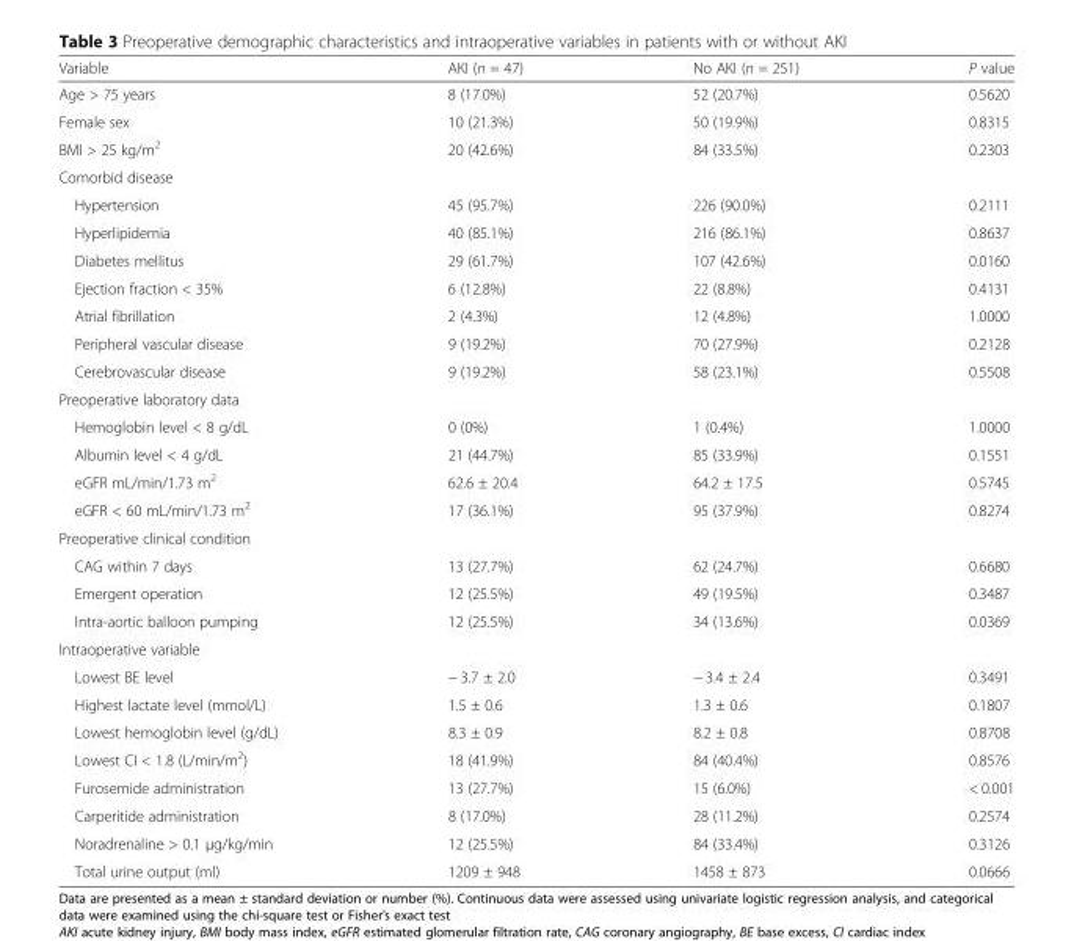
<table><thead><tr><td>Variable</td><td>AKI (n = 47)</td><td>No AKI (n = 251)</td><td>P value</td></tr></thead><tbody><tr><td>Age &gt; 75 years</td><td>8 (17.0%)</td><td>52 (20.7%)</td><td>0.5620</td></tr><tr><td>Female sex</td><td>10 (21.3%)</td><td>50 (19.9%)</td><td>0.8315</td></tr><tr><td>BMI &gt; 25 kg/m<sup>2</sup></td><td>20 (42.6%)</td><td>84 (33.5%)</td><td>0.2303</td></tr><tr><td colspan="4">Comorbid disease</td></tr><tr><td>Hypertension</td><td>45 (95.7%)</td><td>226 (90.0%)</td><td>0.2111</td></tr><tr><td>Hyperlipidemia</td><td>40 (85.1%)</td><td>216 (86.1%)</td><td>0.8637</td></tr><tr><td>Diabetes mellitus</td><td>29 (61.7%)</td><td>107 (42.6%)</td><td>0.0160</td></tr><tr><td>Ejection fraction &lt; 35%</td><td>6 (12.8%)</td><td>22 (8.8%)</td><td>0.4131</td></tr><tr><td>Atrial fibrillation</td><td>2 (4.3%)</td><td>12 (4.8%)</td><td>1.0000</td></tr><tr><td>Peripheral vascular disease</td><td>9 (19.2%)</td><td>70 (27.9%)</td><td>0.2128</td></tr><tr><td>Cerebrovascular disease</td><td>9 (19.2%)</td><td>58 (23.1%)</td><td>0.5508</td></tr><tr><td colspan="4">Preoperative laboratory data</td></tr><tr><td>Hemoglobin level &lt; 8 g/dL</td><td>0 (0%)</td><td>1 (0.4%)</td><td>1.0000</td></tr><tr><td>Albumin level &lt; 4 g/dL</td><td>21 (44.7%)</td><td>85 (33.9%)</td><td>0.1551</td></tr><tr><td>eGFR mL/min/1.73 m<sup>2</sup></td><td>62.6 ± 20.4</td><td>64.2 ± 17.5</td><td>0.5745</td></tr><tr><td>eGFR &lt; 60 mL/min/1.73 m<sup>2</sup></td><td>17 (36.1%)</td><td>95 (37.9%)</td><td>0.8274</td></tr><tr><td colspan="4">Preoperative clinical condition</td></tr><tr><td>CAG within 7 days</td><td>13 (27.7%)</td><td>62 (24.7%)</td><td>0.6680</td></tr><tr><td>Emergent operation</td><td>12 (25.5%)</td><td>49 (19.5%)</td><td>0.3487</td></tr><tr><td>Intra-aortic balloon pumping</td><td>12 (25.5%)</td><td>34 (13.6%)</td><td>0.0369</td></tr><tr><td colspan="4">Intraoperative variable</td></tr><tr><td>Lowest BE level</td><td>− 3.7 ± 2.0</td><td>− 3.4 ± 2.4</td><td>0.3491</td></tr><tr><td>Highest lactate level (mmol/L)</td><td>1.5 ± 0.6</td><td>1.3 ± 0.6</td><td>0.1807</td></tr><tr><td>Lowest hemoglobin level (g/dL)</td><td>8.3 ± 0.9</td><td>8.2 ± 0.8</td><td>0.8708</td></tr><tr><td>Lowest CI &lt; 1.8 (L/min/m<sup>2</sup>)</td><td>18 (41.9%)</td><td>84 (40.4%)</td><td>0.8576</td></tr><tr><td>Furosemide administration</td><td>13 (27.7%)</td><td>15 (6.0%)</td><td>&lt; 0.001</td></tr><tr><td>Carperitide administration</td><td>8 (17.0%)</td><td>28 (11.2%)</td><td>0.2574</td></tr><tr><td>Noradrenaline &gt; 0.1 μg/kg/min</td><td>12 (25.5%)</td><td>84 (33.4%)</td><td>0.3126</td></tr><tr><td>Total urine output (ml)</td><td>1209 ± 948</td><td>1458 ± 873</td><td>0.0666</td></tr></tbody></table>